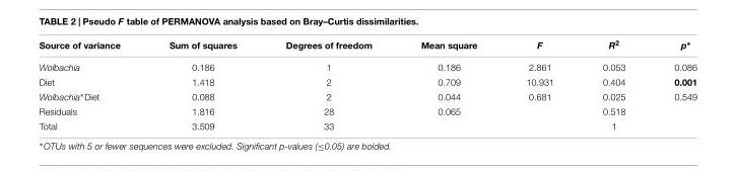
<table><thead><tr><td>Source of variance</td><td>Sum of squares</td><td>Degrees of freedom</td><td>Mean square</td><td>F</td><td>R<sup>2</sup></td><td>p∗</td></tr></thead><tbody><tr><td>Wolbachia</td><td>0.186</td><td>1</td><td>0.186</td><td>2.861</td><td>0.053</td><td>0.086</td></tr><tr><td>Diet</td><td>1.418</td><td>2</td><td>0.709</td><td>10.931</td><td>0.404</td><td>0.001</td></tr><tr><td>Wolbachia∗Diet</td><td>0.088</td><td>2</td><td>0.044</td><td>0.681</td><td>0.025</td><td>0.549</td></tr><tr><td>Residuals</td><td>1.816</td><td>28</td><td>0.065</td><td></td><td>0.518</td><td></td></tr><tr><td>Total</td><td>3.509</td><td>33</td><td></td><td></td><td>1</td><td></td></tr></tbody></table>